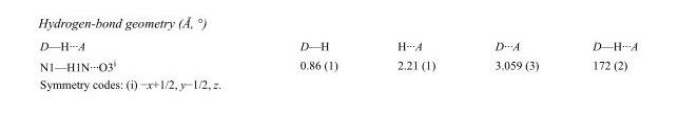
<table><tbody><tr><td>D—H···A</td><td>D—H</td><td>H···A</td><td>D···A</td><td>D—H···A</td></tr><tr><td>N1—H1N···O3<sup>i</sup></td><td>0.86 (1)</td><td>2.21 (1)</td><td>3.059 (3)</td><td>172 (2)</td></tr></tbody></table>